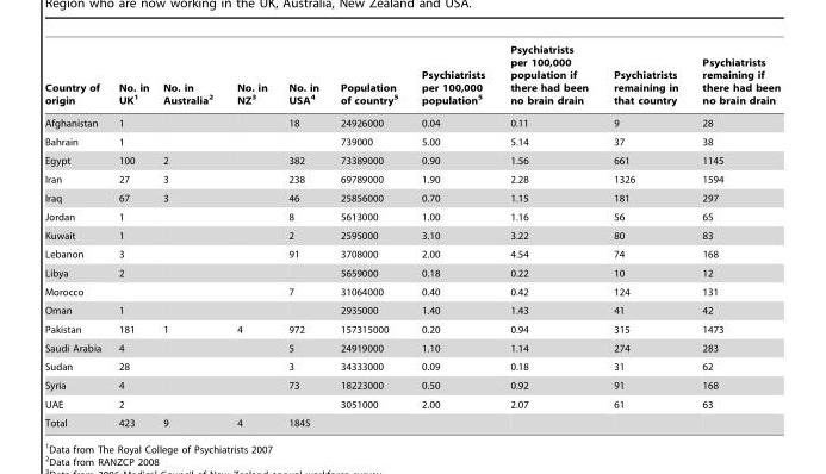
<table><thead><tr><td>Country of origin</td><td>No. in UK<sup>1</sup></td><td>No. in Australia<sup>2</sup></td><td>No. in NZ<sup>3</sup></td><td>No. in USA<sup>4</sup></td><td>Population of country<sup>5</sup></td><td>Psychiatrists per 100,000 population<sup>5</sup></td><td>Psychiatrists per 100,000 population if there had been no brain drain</td><td>Psychiatrists remaining in that country</td><td>Psychiatrists remaining if there had been no brain drain</td></tr></thead><tbody><tr><td>Afghanistan</td><td>1</td><td></td><td></td><td>18</td><td>24926000</td><td>0.04</td><td>0.11</td><td>9</td><td>28</td></tr><tr><td>Bahrain</td><td>1</td><td></td><td></td><td></td><td>739000</td><td>5.00</td><td>5.14</td><td>37</td><td>38</td></tr><tr><td>Egypt</td><td>100</td><td>2</td><td></td><td>382</td><td>73389000</td><td>0.90</td><td>1.56</td><td>661</td><td>1145</td></tr><tr><td>Iran</td><td>27</td><td>3</td><td></td><td>238</td><td>69789000</td><td>1.90</td><td>2.28</td><td>1326</td><td>1594</td></tr><tr><td>Iraq</td><td>67</td><td>3</td><td></td><td>46</td><td>25856000</td><td>0.70</td><td>1.15</td><td>181</td><td>297</td></tr><tr><td>Jordan</td><td>1</td><td></td><td></td><td>8</td><td>5613000</td><td>1.00</td><td>1.16</td><td>56</td><td>65</td></tr><tr><td>Kuwait</td><td>1</td><td></td><td></td><td>2</td><td>2595000</td><td>3.10</td><td>3.22</td><td>80</td><td>83</td></tr><tr><td>Lebanon</td><td>3</td><td></td><td></td><td>91</td><td>3708000</td><td>2.00</td><td>4.54</td><td>74</td><td>168</td></tr><tr><td>Libya</td><td>2</td><td></td><td></td><td></td><td>5659000</td><td>0.18</td><td>0.22</td><td>10</td><td>12</td></tr><tr><td>Morocco</td><td></td><td></td><td></td><td>7</td><td>31064000</td><td>0.40</td><td>0.42</td><td>124</td><td>131</td></tr><tr><td>Oman</td><td>1</td><td></td><td></td><td></td><td>2935000</td><td>1.40</td><td>1.43</td><td>41</td><td>42</td></tr><tr><td>Pakistan</td><td>181</td><td>1</td><td>4</td><td>972</td><td>157315000</td><td>0.20</td><td>0.94</td><td>315</td><td>1473</td></tr><tr><td>Saudi Arabia</td><td>4</td><td></td><td></td><td>5</td><td>24919000</td><td>1.10</td><td>1.14</td><td>274</td><td>283</td></tr><tr><td>Sudan</td><td>28</td><td></td><td></td><td>3</td><td>34333000</td><td>0.09</td><td>0.18</td><td>31</td><td>62</td></tr><tr><td>Syria</td><td>4</td><td></td><td></td><td>73</td><td>18223000</td><td>0.50</td><td>0.92</td><td>91</td><td>168</td></tr><tr><td>UAE</td><td>2</td><td></td><td></td><td></td><td>3051000</td><td>2.00</td><td>2.07</td><td>61</td><td>63</td></tr><tr><td>Total</td><td>423</td><td>9</td><td>4</td><td>1845</td><td></td><td></td><td></td><td></td><td></td></tr></tbody></table>